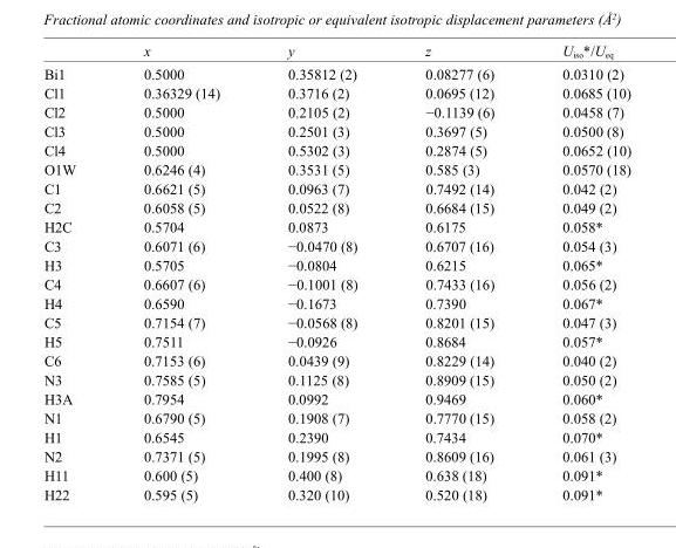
<table><thead><tr><td></td><td>x</td><td>y</td><td>z</td><td>U<sub>iso</sub>*/U<sub>eq</sub></td></tr></thead><tbody><tr><td>Bi1</td><td>0.5000</td><td>0.35812 (2)</td><td>0.08277 (6)</td><td>0.0310 (2)</td></tr><tr><td>Cl1</td><td>0.36329 (14)</td><td>0.3716 (2)</td><td>0.0695 (12)</td><td>0.0685 (10)</td></tr><tr><td>Cl2</td><td>0.5000</td><td>0.2105 (2)</td><td>−0.1139 (6)</td><td>0.0458 (7)</td></tr><tr><td>Cl3</td><td>0.5000</td><td>0.2501 (3)</td><td>0.3697 (5)</td><td>0.0500 (8)</td></tr><tr><td>Cl4</td><td>0.5000</td><td>0.5302 (3)</td><td>0.2874 (5)</td><td>0.0652 (10)</td></tr><tr><td>O1W</td><td>0.6246 (4)</td><td>0.3531 (5)</td><td>0.585 (3)</td><td>0.0570 (18)</td></tr><tr><td>C1</td><td>0.6621 (5)</td><td>0.0963 (7)</td><td>0.7492 (14)</td><td>0.042 (2)</td></tr><tr><td>C2</td><td>0.6058 (5)</td><td>0.0522 (8)</td><td>0.6684 (15)</td><td>0.049 (2)</td></tr><tr><td>H2C</td><td>0.5704</td><td>0.0873</td><td>0.6175</td><td>0.058*</td></tr><tr><td>C3</td><td>0.6071 (6)</td><td>−0.0470 (8)</td><td>0.6707 (16)</td><td>0.054 (3)</td></tr><tr><td>H3</td><td>0.5705</td><td>−0.0804</td><td>0.6215</td><td>0.065*</td></tr><tr><td>C4</td><td>0.6607 (6)</td><td>−0.1001 (8)</td><td>0.7433 (16)</td><td>0.056 (2)</td></tr><tr><td>H4</td><td>0.6590</td><td>−0.1673</td><td>0.7390</td><td>0.067*</td></tr><tr><td>C5</td><td>0.7154 (7)</td><td>−0.0568 (8)</td><td>0.8201 (15)</td><td>0.047 (3)</td></tr><tr><td>H5</td><td>0.7511</td><td>−0.0926</td><td>0.8684</td><td>0.057*</td></tr><tr><td>C6</td><td>0.7153 (6)</td><td>0.0439 (9)</td><td>0.8229 (14)</td><td>0.040 (2)</td></tr><tr><td>N3</td><td>0.7585 (5)</td><td>0.1125 (8)</td><td>0.8909 (15)</td><td>0.050 (2)</td></tr><tr><td>H3A</td><td>0.7954</td><td>0.0992</td><td>0.9469</td><td>0.060*</td></tr><tr><td>N1</td><td>0.6790 (5)</td><td>0.1908 (7)</td><td>0.7770 (15)</td><td>0.058 (2)</td></tr><tr><td>H1</td><td>0.6545</td><td>0.2390</td><td>0.7434</td><td>0.070*</td></tr><tr><td>N2</td><td>0.7371 (5)</td><td>0.1995 (8)</td><td>0.8609 (16)</td><td>0.061 (3)</td></tr><tr><td>H11</td><td>0.600 (5)</td><td>0.400 (8)</td><td>0.638 (18)</td><td>0.091*</td></tr><tr><td>H22</td><td>0.595 (5)</td><td>0.320 (10)</td><td>0.520 (18)</td><td>0.091*</td></tr></tbody></table>